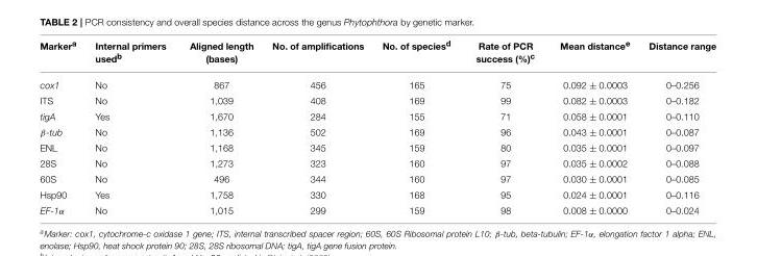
<table><thead><tr><td>Marker<sup>a</sup></td><td>Internal primers used<sup>b</sup></td><td>Aligned length (bases)</td><td>No. of amplifications</td><td>No. of species<sup>d</sup></td><td>Rate of PCR success (%)<sup>c</sup></td><td>Mean distance<sup>e</sup></td><td>Distance range</td></tr></thead><tbody><tr><td>cox1</td><td>No</td><td>867</td><td>456</td><td>165</td><td>75</td><td>0.092 ± 0.0003</td><td>0–0.256</td></tr><tr><td>ITS</td><td>No</td><td>1,039</td><td>408</td><td>169</td><td>99</td><td>0.082 ± 0.0003</td><td>0–0.182</td></tr><tr><td>tigA</td><td>Yes</td><td>1,670</td><td>284</td><td>155</td><td>71</td><td>0.058 ± 0.0001</td><td>0–0.110</td></tr><tr><td>β-tub</td><td>No</td><td>1,136</td><td>502</td><td>169</td><td>96</td><td>0.043 ± 0.0001</td><td>0–0.087</td></tr><tr><td>ENL</td><td>No</td><td>1,168</td><td>345</td><td>159</td><td>80</td><td>0.035 ± 0.0001</td><td>0–0.097</td></tr><tr><td>28S</td><td>No</td><td>1,273</td><td>323</td><td>160</td><td>97</td><td>0.035 ± 0.0002</td><td>0–0.088</td></tr><tr><td>60S</td><td>No</td><td>496</td><td>344</td><td>160</td><td>97</td><td>0.030 ± 0.0001</td><td>0–0.085</td></tr><tr><td>Hsp90</td><td>Yes</td><td>1,758</td><td>330</td><td>168</td><td>95</td><td>0.024 ± 0.0001</td><td>0–0.116</td></tr><tr><td>EF-1α</td><td>No</td><td>1,015</td><td>299</td><td>159</td><td>98</td><td>0.008 ± 0.0000</td><td>0–0.024</td></tr></tbody></table>